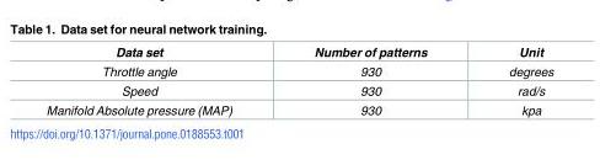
<table><thead><tr><td>Data set</td><td>Number of patterns</td><td>Unit</td></tr></thead><tbody><tr><td>Throttle angle</td><td>930</td><td>degrees</td></tr><tr><td>Speed</td><td>930</td><td>rad/s</td></tr><tr><td>Manifold Absolute pressure (MAP)</td><td>930</td><td>kpa</td></tr></tbody></table>